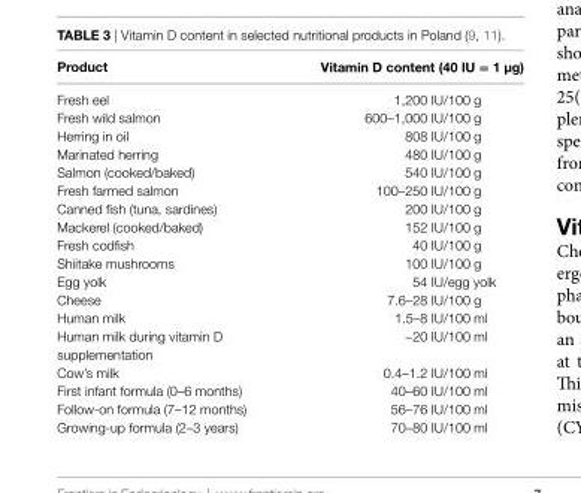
<table><thead><tr><td>Product</td><td>vitamin D content (40 iU = 1 µg)</td></tr></thead><tbody><tr><td>Fresh eel</td><td>1,200 IU/100 g</td></tr><tr><td>Fresh wild salmon</td><td>600–1,000 IU/100 g</td></tr><tr><td>Herring in oil</td><td>808 IU/100 g</td></tr><tr><td>Marinated herring</td><td>480 IU/100 g</td></tr><tr><td>Salmon (cooked/baked)</td><td>540 IU/100 g</td></tr><tr><td>Fresh farmed salmon</td><td>100–250 IU/100 g</td></tr><tr><td>Canned fish (tuna, sardines)</td><td>200 IU/100 g</td></tr><tr><td>Mackerel (cooked/baked)</td><td>152 IU/100 g</td></tr><tr><td>Fresh codfish</td><td>40 IU/100 g</td></tr><tr><td>Shiitake mushrooms</td><td>100 IU/100 g</td></tr><tr><td>Egg yolk</td><td>54 IU/egg yolk</td></tr><tr><td>Cheese</td><td>7.6–28 IU/100 g</td></tr><tr><td>Human milk</td><td>1.5–8 IU/100 ml</td></tr><tr><td>Human milk during vitamin D supplementation</td><td>~20 IU/100 ml</td></tr><tr><td>Cow’s milk</td><td>0.4–1.2 IU/100 ml</td></tr><tr><td>First infant formula (0–6 months)</td><td>40–60 IU/100 ml</td></tr><tr><td>Follow-on formula (7–12 months)</td><td>56–76 IU/100 ml</td></tr><tr><td>Growing-up formula (2–3 years)</td><td>70–80 IU/100 ml</td></tr></tbody></table>